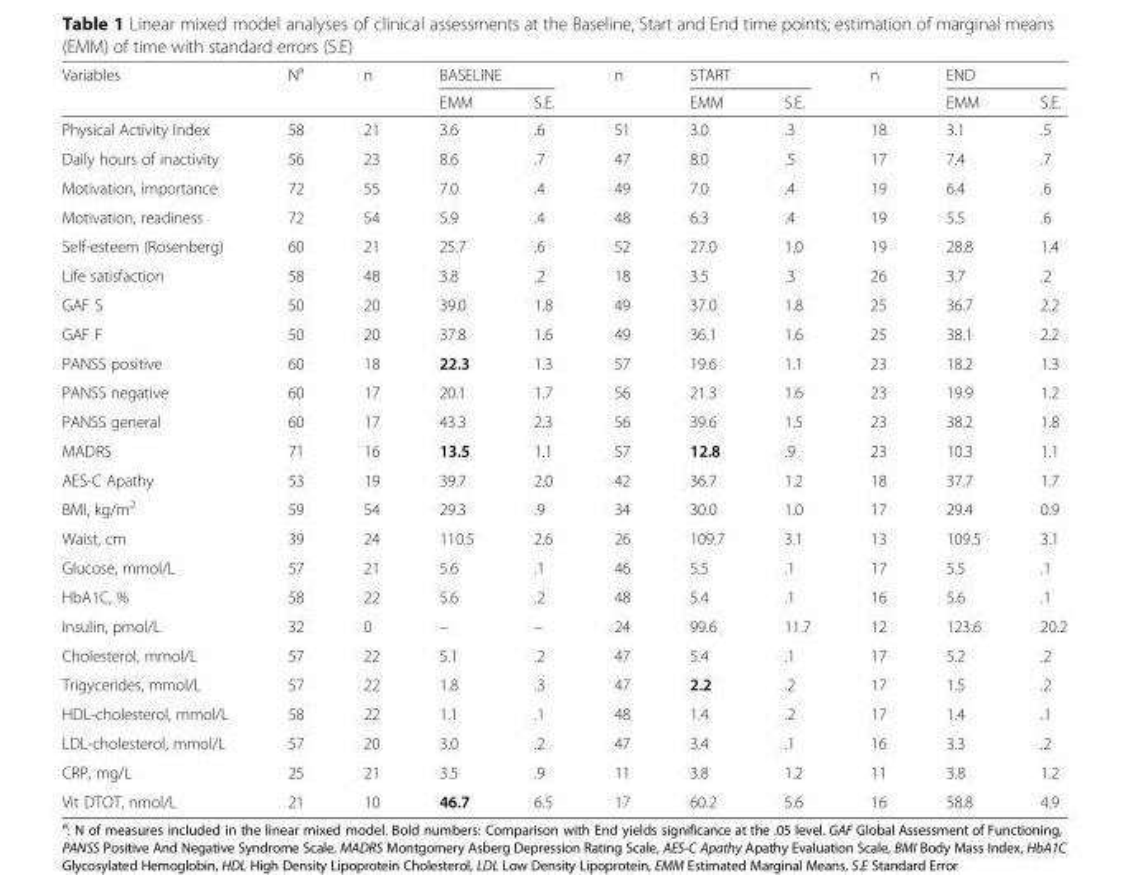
<table><thead><tr><td rowspan="2">Variables</td><td rowspan="2">N<sup>a</sup></td><td rowspan="2">n</td><td colspan="2">BASELINE</td><td rowspan="2">n</td><td colspan="2">START</td><td rowspan="2">n</td><td colspan="2">END</td></tr><tr><td>EMM</td><td>S.E.</td><td>EMM</td><td>S.E.</td><td>EMM</td><td>S.E.</td></tr></thead><tbody><tr><td>Physical Activity Index</td><td>58</td><td>21</td><td>3.6</td><td>.6</td><td>51</td><td>3.0</td><td>.3</td><td>18</td><td>3.1</td><td>.5</td></tr><tr><td>Daily hours of inactivity</td><td>56</td><td>23</td><td>8.6</td><td>.7</td><td>47</td><td>8.0</td><td>.5</td><td>17</td><td>7.4</td><td>.7</td></tr><tr><td>Motivation, importance</td><td>72</td><td>55</td><td>7.0</td><td>.4</td><td>49</td><td>7.0</td><td>.4</td><td>19</td><td>6.4</td><td>.6</td></tr><tr><td>Motivation, readiness</td><td>72</td><td>54</td><td>5.9</td><td>.4</td><td>48</td><td>6.3</td><td>.4</td><td>19</td><td>5.5</td><td>.6</td></tr><tr><td>Self-esteem (Rosenberg)</td><td>60</td><td>21</td><td>25.7</td><td>.6</td><td>52</td><td>27.0</td><td>1.0</td><td>19</td><td>28.8</td><td>1.4</td></tr><tr><td>Life satisfaction</td><td>58</td><td>48</td><td>3.8</td><td>.2</td><td>18</td><td>3.5</td><td>.3</td><td>26</td><td>3.7</td><td>.2</td></tr><tr><td>GAF S</td><td>50</td><td>20</td><td>39.0</td><td>1.8</td><td>49</td><td>37.0</td><td>1.8</td><td>25</td><td>36.7</td><td>2.2</td></tr><tr><td>GAF F</td><td>50</td><td>20</td><td>37.8</td><td>1.6</td><td>49</td><td>36.1</td><td>1.6</td><td>25</td><td>38.1</td><td>2.2</td></tr><tr><td>PANSS positive</td><td>60</td><td>18</td><td>22.3</td><td>1.3</td><td>57</td><td>19.6</td><td>1.1</td><td>23</td><td>18.2</td><td>1.3</td></tr><tr><td>PANSS negative</td><td>60</td><td>17</td><td>20.1</td><td>1.7</td><td>56</td><td>21.3</td><td>1.6</td><td>23</td><td>19.9</td><td>1.2</td></tr><tr><td>PANSS general</td><td>60</td><td>17</td><td>43.3</td><td>2.3</td><td>56</td><td>39.6</td><td>1.5</td><td>23</td><td>38.2</td><td>1.8</td></tr><tr><td>MADRS</td><td>71</td><td>16</td><td>13.5</td><td>1.1</td><td>57</td><td>12.8</td><td>.9</td><td>23</td><td>10.3</td><td>1.1</td></tr><tr><td>AES-C Apathy</td><td>53</td><td>19</td><td>39.7</td><td>2.0</td><td>42</td><td>36.7</td><td>1.2</td><td>18</td><td>37.7</td><td>1.7</td></tr><tr><td>BMI, kg/m<sup>2</sup></td><td>59</td><td>54</td><td>29.3</td><td>.9</td><td>34</td><td>30.0</td><td>1.0</td><td>17</td><td>29.4</td><td>0.9</td></tr><tr><td>Waist, cm</td><td>39</td><td>24</td><td>110.5</td><td>2.6</td><td>26</td><td>109.7</td><td>3.1</td><td>13</td><td>109.5</td><td>3.1</td></tr><tr><td>Glucose, mmol/L</td><td>57</td><td>21</td><td>5.6</td><td>.1</td><td>46</td><td>5.5</td><td>.1</td><td>17</td><td>5.5</td><td>.1</td></tr><tr><td>HbA1C, %</td><td>58</td><td>22</td><td>5.6</td><td>.2</td><td>48</td><td>5.4</td><td>.1</td><td>16</td><td>5.6</td><td>.1</td></tr><tr><td>Insulin, pmol/L</td><td>32</td><td>0</td><td>–</td><td>–</td><td>24</td><td>99.6</td><td>11.7</td><td>12</td><td>123.6</td><td>20.2</td></tr><tr><td>Cholesterol, mmol/L</td><td>57</td><td>22</td><td>5.1</td><td>.2</td><td>47</td><td>5.4</td><td>.1</td><td>17</td><td>5.2</td><td>.2</td></tr><tr><td>Trigycerides, mmol/L</td><td>57</td><td>22</td><td>1.8</td><td>.3</td><td>47</td><td>2.2</td><td>.2</td><td>17</td><td>1.5</td><td>.2</td></tr><tr><td>HDL-cholesterol, mmol/L</td><td>58</td><td>22</td><td>1.1</td><td>.1</td><td>48</td><td>1.4</td><td>.2</td><td>17</td><td>1.4</td><td>.1</td></tr><tr><td>LDL-cholesterol, mmol/L</td><td>57</td><td>20</td><td>3.0</td><td>.2</td><td>47</td><td>3.4</td><td>.1</td><td>16</td><td>3.3</td><td>.2</td></tr><tr><td>CRP, mg/L</td><td>25</td><td>21</td><td>3.5</td><td>.9</td><td>11</td><td>3.8</td><td>1.2</td><td>11</td><td>3.8</td><td>1.2</td></tr><tr><td>Vit DTOT, nmol/L</td><td>21</td><td>10</td><td>46.7</td><td>6.5</td><td>17</td><td>60.2</td><td>5.6</td><td>16</td><td>58.8</td><td>4.9</td></tr></tbody></table>